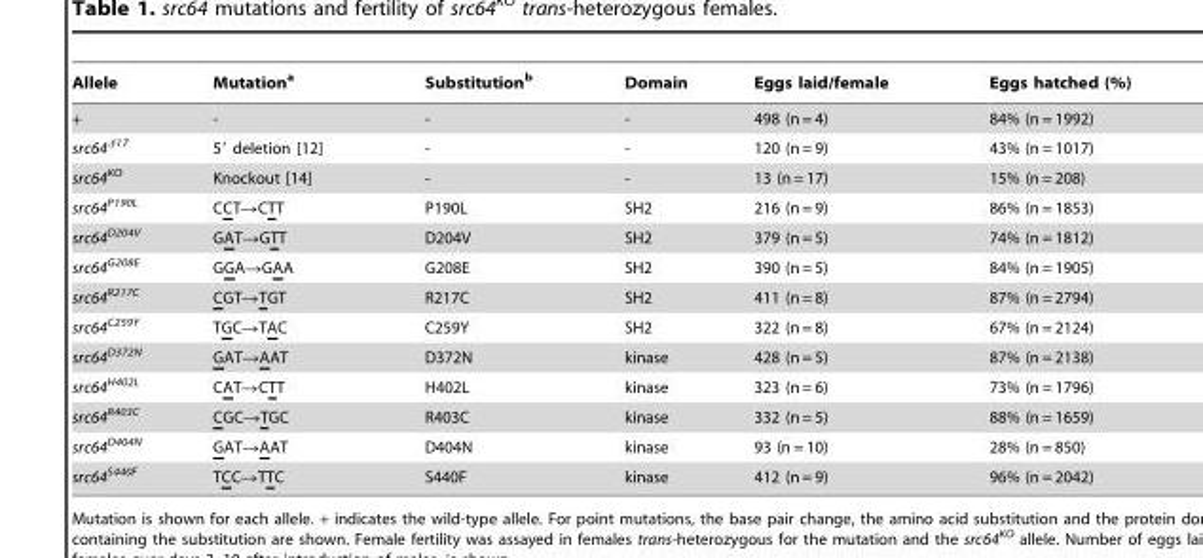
<table><thead><tr><td>Allele</td><td>Mutation<sup>a</sup></td><td>Substitution<sup>b</sup></td><td>Domain</td><td>Eggs laid/female</td><td>Eggs hatched (%)</td></tr></thead><tbody><tr><td>+</td><td>-</td><td>-</td><td>-</td><td>498 (n = 4)</td><td>84% (n = 1992)</td></tr><tr><td>src64<sup>Δ17</sup></td><td>5′ deletion [12]</td><td>-</td><td>-</td><td>120 (n = 9)</td><td>43% (n = 1017)</td></tr><tr><td>src64<sup>KO</sup></td><td>Knockout [14]</td><td>-</td><td>-</td><td>13 (n = 17)</td><td>15% (n = 208)</td></tr><tr><td>src64<sup>P190L</sup></td><td>CCT→CTT</td><td>P190L</td><td>SH2</td><td>216 (n = 9)</td><td>86% (n = 1853)</td></tr><tr><td>src64<sup>D204V</sup></td><td>GAT→GTT</td><td>D204V</td><td>SH2</td><td>379 (n = 5)</td><td>74% (n = 1812)</td></tr><tr><td>src64<sup>G208E</sup></td><td>GGA→GAA</td><td>G208E</td><td>SH2</td><td>390 (n = 5)</td><td>84% (n = 1905)</td></tr><tr><td>src64<sup>R217C</sup></td><td>CGT→TGT</td><td>R217C</td><td>SH2</td><td>411 (n = 8)</td><td>87% (n = 2794)</td></tr><tr><td>src64<sup>C259Y</sup></td><td>TGC→TAC</td><td>C259Y</td><td>SH2</td><td>322 (n = 8)</td><td>67% (n = 2124)</td></tr><tr><td>src64<sup>D372N</sup></td><td>GAT→AAT</td><td>D372N</td><td>kinase</td><td>428 (n = 5)</td><td>87% (n = 2138)</td></tr><tr><td>src64<sup>H402L</sup></td><td>CAT→CTT</td><td>H402L</td><td>kinase</td><td>323 (n = 6)</td><td>73% (n = 1796)</td></tr><tr><td>src64<sup>R403C</sup></td><td>CGC→TGC</td><td>R403C</td><td>kinase</td><td>332 (n = 5)</td><td>88% (n = 1659)</td></tr><tr><td>src64<sup>D404N</sup></td><td>GAT→AAT</td><td>D404N</td><td>kinase</td><td>93 (n = 10)</td><td>28% (n = 850)</td></tr><tr><td>src64<sup>S440F</sup></td><td>TCC→TTC</td><td>S440F</td><td>kinase</td><td>412 (n = 9)</td><td>96% (n = 2042)</td></tr></tbody></table>